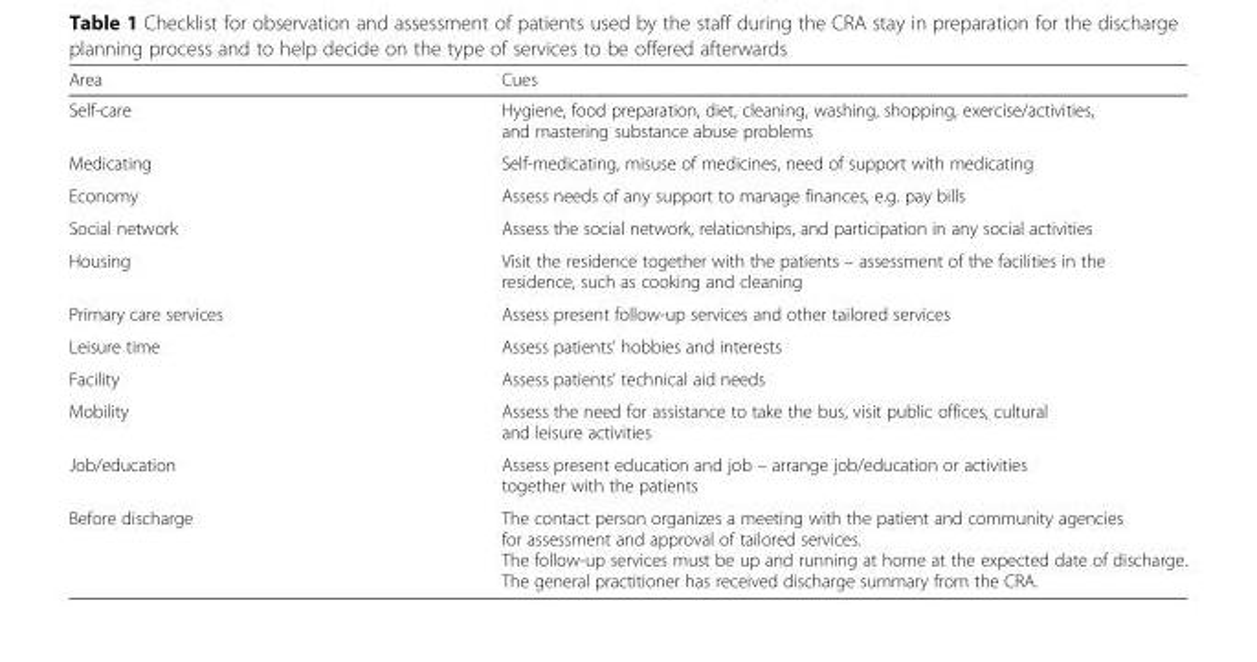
<table><thead><tr><td>Area</td><td>Cues</td></tr></thead><tbody><tr><td>Self-care</td><td>Hygiene, food preparation, diet, cleaning, washing, shopping, exercise/activities, and mastering substance abuse problems</td></tr><tr><td>Medicating</td><td>Self-medicating, misuse of medicines, need of support with medicating</td></tr><tr><td>Economy</td><td>Assess needs of any support to manage finances, e.g. pay bills</td></tr><tr><td>Social network</td><td>Assess the social network, relationships, and participation in any social activities</td></tr><tr><td>Housing</td><td>Visit the residence together with the patients – assessment of the facilities in the residence, such as cooking and cleaning</td></tr><tr><td>Primary care services</td><td>Assess present follow-up services and other tailored services</td></tr><tr><td>Leisure time</td><td>Assess patients’ hobbies and interests</td></tr><tr><td>Facility</td><td>Assess patients’ technical aid needs</td></tr><tr><td>Mobility</td><td>Assess the need for assistance to take the bus, visit public offices, cultural and leisure activities</td></tr><tr><td>Job/education</td><td>Assess present education and job – arrange job/education or activities together with the patients</td></tr><tr><td>Before discharge</td><td>The contact person organizes a meeting with the patient and community agencies for assessment and approval of tailored services. The follow-up services must be up and running at home at the expected date of discharge. The general practitioner has received discharge summary from the CRA.</td></tr></tbody></table>